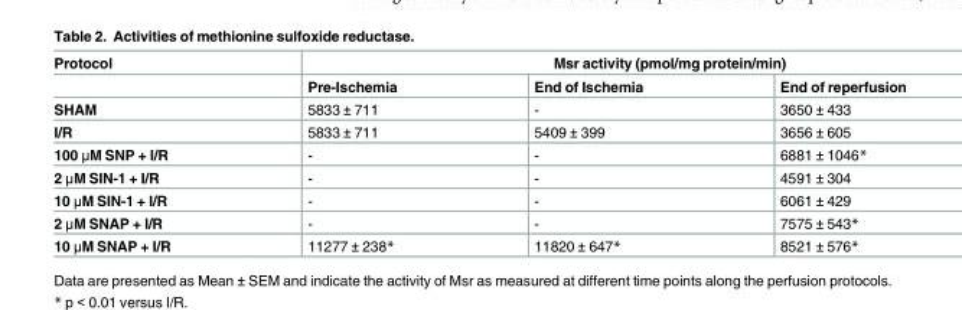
<table><thead><tr><td rowspan="2">Protocol</td><td colspan="3">Msr activity (pmol/mg protein/min)</td></tr><tr><td>Pre-Ischemia</td><td>End of Ischemia</td><td>End of reperfusion</td></tr></thead><tbody><tr><td>SHAM</td><td>5833 ± 711</td><td>-</td><td>3650 ± 433</td></tr><tr><td>I/R</td><td>5833 ± 711</td><td>5409 ± 399</td><td>3656 ± 605</td></tr><tr><td>100 μM SNP + I/R</td><td>-</td><td>-</td><td>6881 ± 1046*</td></tr><tr><td>2 μM SIN-1 + I/R</td><td>-</td><td>-</td><td>4591 ± 304</td></tr><tr><td>10 μM SIN-1 + I/R</td><td>-</td><td>-</td><td>6061 ± 429</td></tr><tr><td>2 μM SNAP + I/R</td><td>-</td><td>-</td><td>7575 ± 543*</td></tr><tr><td>10 μM SNAP + I/R</td><td>11277 ± 238*</td><td>11820 ± 647*</td><td>8521 ± 576*</td></tr></tbody></table>